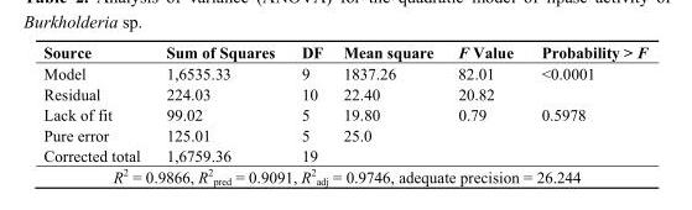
<table><thead><tr><td>Source</td><td>Sum of Squares</td><td>DF</td><td>Mean square</td><td>F Value</td><td>Probability &gt; F</td></tr></thead><tbody><tr><td>Model</td><td>1,6535.33</td><td>9</td><td>1837.26</td><td>82.01</td><td>&lt;0.0001</td></tr><tr><td>Residual</td><td>224.03</td><td>10</td><td>22.40</td><td>20.82</td><td></td></tr><tr><td>Lack of fit</td><td>99.02</td><td>5</td><td>19.80</td><td>0.79</td><td>0.5978</td></tr><tr><td>Pure error</td><td>125.01</td><td>5</td><td>25.0</td><td></td><td></td></tr><tr><td>Corrected total</td><td>1,6759.36</td><td>19</td><td></td><td></td><td></td></tr></tbody></table>